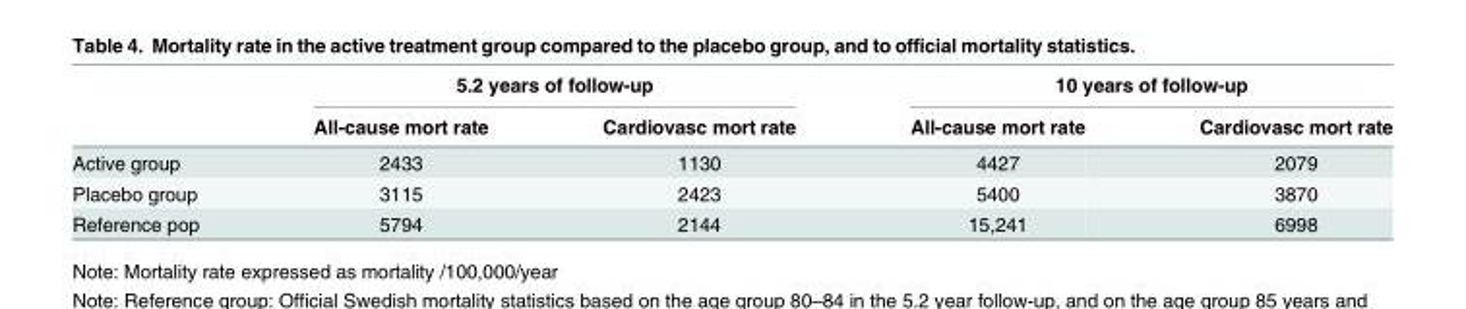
<table><thead><tr><td rowspan="2"></td><td colspan="2">5.2 years of follow-up</td><td colspan="2">10 years of follow-up</td></tr><tr><td>All-cause mort rate</td><td>Cardiovasc mort rate</td><td>All-cause mort rate</td><td>Cardiovasc mort rate</td></tr></thead><tbody><tr><td>Active group</td><td>2433</td><td>1130</td><td>4427</td><td>2079</td></tr><tr><td>Placebo group</td><td>3115</td><td>2423</td><td>5400</td><td>3870</td></tr><tr><td>Reference pop</td><td>5794</td><td>2144</td><td>15,241</td><td>6998</td></tr></tbody></table>